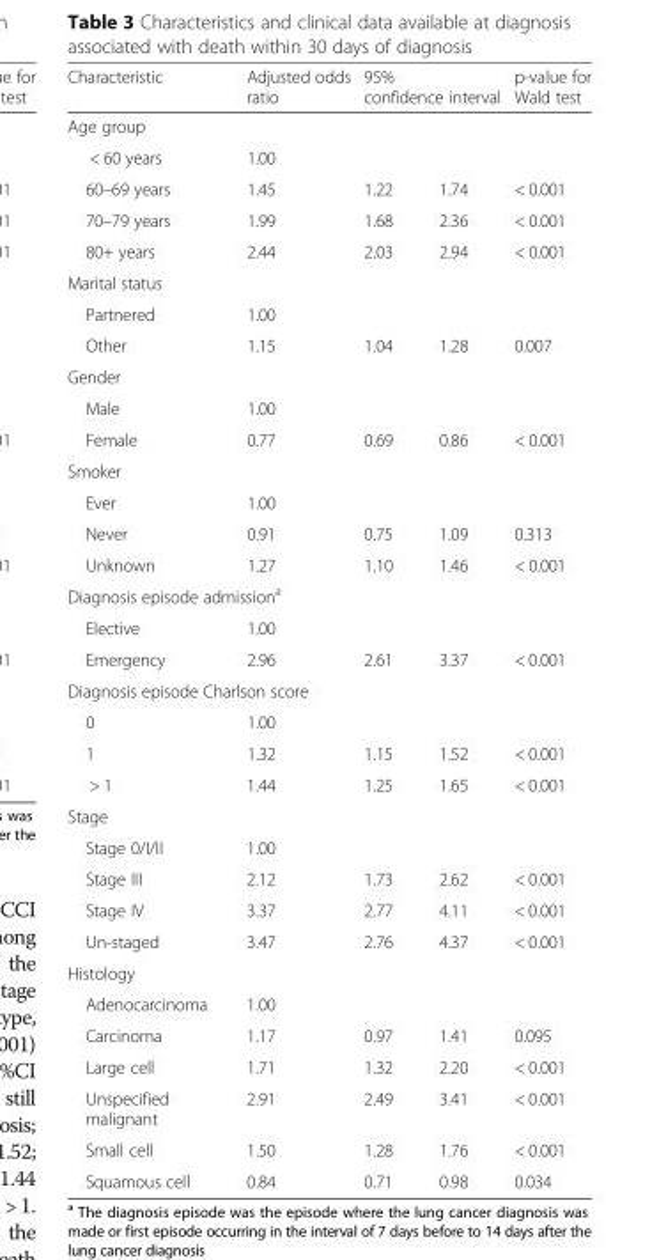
<table><thead><tr><td>Characteristic</td><td>Adjusted odds ratio</td><td colspan="2">95% confidence interval</td><td>p-value for Wald test</td></tr><tr><td colspan="5">Age group</td></tr><tr><td>&lt; 60 years</td><td>1.00</td><td></td><td></td><td></td></tr></thead><tbody><tr><td>60–69 years</td><td>1.45</td><td>1.22</td><td>1.74</td><td>&lt; 0.001</td></tr><tr><td>70–79 years</td><td>1.99</td><td>1.68</td><td>2.36</td><td>&lt; 0.001</td></tr><tr><td>80+ years</td><td>2.44</td><td>2.03</td><td>2.94</td><td>&lt; 0.001</td></tr><tr><td colspan="5">Marital status</td></tr><tr><td>Partnered</td><td>1.00</td><td></td><td></td><td></td></tr><tr><td>Other</td><td>1.15</td><td>1.04</td><td>1.28</td><td>0.007</td></tr><tr><td colspan="5">Gender</td></tr><tr><td>Male</td><td>1.00</td><td></td><td></td><td></td></tr><tr><td>Female</td><td>0.77</td><td>0.69</td><td>0.86</td><td>&lt; 0.001</td></tr><tr><td colspan="5">Smoker</td></tr><tr><td>Ever</td><td>1.00</td><td></td><td></td><td></td></tr><tr><td>Never</td><td>0.91</td><td>0.75</td><td>1.09</td><td>0.313</td></tr><tr><td>Unknown</td><td>1.27</td><td>1.10</td><td>1.46</td><td>&lt; 0.001</td></tr><tr><td colspan="5">Diagnosis episode admission<sup>a</sup></td></tr><tr><td>Elective</td><td>1.00</td><td></td><td></td><td></td></tr><tr><td>Emergency</td><td>2.96</td><td>2.61</td><td>3.37</td><td>&lt; 0.001</td></tr><tr><td colspan="5">Diagnosis episode Charlson score</td></tr><tr><td>0</td><td>1.00</td><td></td><td></td><td></td></tr><tr><td>1</td><td>1.32</td><td>1.15</td><td>1.52</td><td>&lt; 0.001</td></tr><tr><td>&gt; 1</td><td>1.44</td><td>1.25</td><td>1.65</td><td>&lt; 0.001</td></tr><tr><td colspan="5">Stage</td></tr><tr><td>Stage 0/I/II</td><td>1.00</td><td></td><td></td><td></td></tr><tr><td>Stage III</td><td>2.12</td><td>1.73</td><td>2.62</td><td>&lt; 0.001</td></tr><tr><td>Stage IV</td><td>3.37</td><td>2.77</td><td>4.11</td><td>&lt; 0.001</td></tr><tr><td>Un-staged</td><td>3.47</td><td>2.76</td><td>4.37</td><td>&lt; 0.001</td></tr><tr><td colspan="5">Histology</td></tr><tr><td>Adenocarcinoma</td><td>1.00</td><td></td><td></td><td></td></tr><tr><td>Carcinoma</td><td>1.17</td><td>0.97</td><td>1.41</td><td>0.095</td></tr><tr><td>Large cell</td><td>1.71</td><td>1.32</td><td>2.20</td><td>&lt; 0.001</td></tr><tr><td>Unspecified malignant</td><td>2.91</td><td>2.49</td><td>3.41</td><td>&lt; 0.001</td></tr><tr><td>Small cell</td><td>1.50</td><td>1.28</td><td>1.76</td><td>&lt; 0.001</td></tr><tr><td>Squamous cell</td><td>0.84</td><td>0.71</td><td>0.98</td><td>0.034</td></tr></tbody></table>